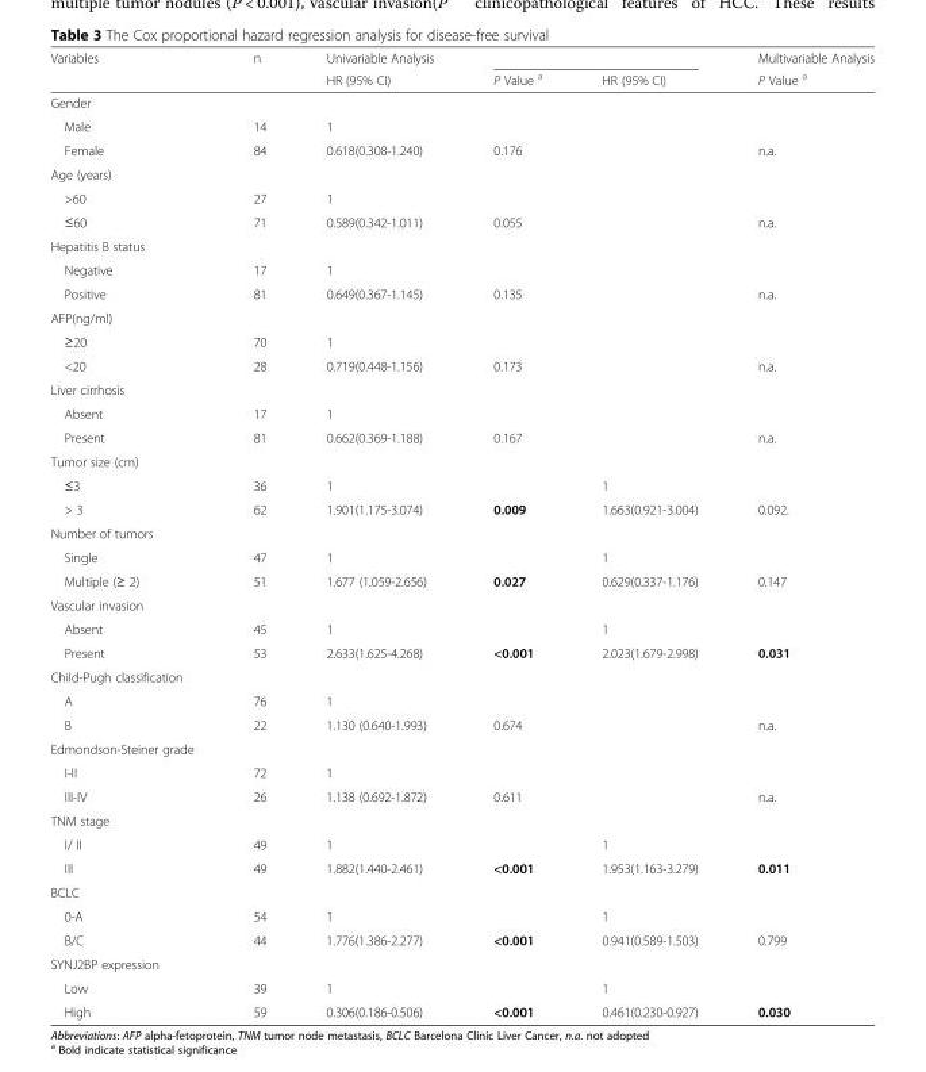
<table><thead><tr><td rowspan="2">Variables</td><td rowspan="2">n</td><td rowspan="2">Univariable Analysis HR (95% CI)</td><td rowspan="2">P Value <sup>a</sup></td><td rowspan="2">HR (95% CI)</td><td rowspan="2">Multivariable Analysis P Value <sup>a</sup></td></tr><tr></tr></thead><tbody><tr><td colspan="6">Gender</td></tr><tr><td>Male</td><td>14</td><td>1</td><td></td><td></td><td></td></tr><tr><td>Female</td><td>84</td><td>0.618(0.308-1.240)</td><td>0.176</td><td></td><td>n.a.</td></tr><tr><td colspan="6">Age (years)</td></tr><tr><td>&gt;60</td><td>27</td><td>1</td><td></td><td></td><td></td></tr><tr><td>≤60</td><td>71</td><td>0.589(0.342-1.011)</td><td>0.055</td><td></td><td>n.a.</td></tr><tr><td colspan="6">Hepatitis B status</td></tr><tr><td>Negative</td><td>17</td><td>1</td><td></td><td></td><td></td></tr><tr><td>Positive</td><td>81</td><td>0.649(0.367-1.145)</td><td>0.135</td><td></td><td>n.a.</td></tr><tr><td colspan="6">AFP(ng/ml)</td></tr><tr><td>≥20</td><td>70</td><td>1</td><td></td><td></td><td></td></tr><tr><td>&lt;20</td><td>28</td><td>0.719(0.448-1.156)</td><td>0.173</td><td></td><td>n.a.</td></tr><tr><td colspan="6">Liver cirrhosis</td></tr><tr><td>Absent</td><td>17</td><td>1</td><td></td><td></td><td></td></tr><tr><td>Present</td><td>81</td><td>0.662(0.369-1.188)</td><td>0.167</td><td></td><td>n.a.</td></tr><tr><td colspan="6">Tumor size (cm)</td></tr><tr><td>≤3</td><td>36</td><td>1</td><td></td><td>1</td><td></td></tr><tr><td>&gt; 3</td><td>62</td><td>1.901(1.175-3.074)</td><td>0.009</td><td>1.663(0.921-3.004)</td><td>0.092.</td></tr><tr><td colspan="6">Number of tumors</td></tr><tr><td>Single</td><td>47</td><td>1</td><td></td><td>1</td><td></td></tr><tr><td>Multiple (≥ 2)</td><td>51</td><td>1.677 (1.059-2.656)</td><td>0.027</td><td>0.629(0.337-1.176)</td><td>0.147</td></tr><tr><td colspan="6">Vascular invasion</td></tr><tr><td>Absent</td><td>45</td><td>1</td><td></td><td>1</td><td></td></tr><tr><td>Present</td><td>53</td><td>2.633(1.625-4.268)</td><td>&lt;0.001</td><td>2.023(1.679-2.998)</td><td>0.031</td></tr><tr><td colspan="6">Child-Pugh classification</td></tr><tr><td>A</td><td>76</td><td>1</td><td></td><td></td><td></td></tr><tr><td>B</td><td>22</td><td>1.130 (0.640-1.993)</td><td>0.674</td><td></td><td>n.a.</td></tr><tr><td colspan="6">Edmondson-Steiner grade</td></tr><tr><td>I-II</td><td>72</td><td>1</td><td></td><td></td><td></td></tr><tr><td>III-IV</td><td>26</td><td>1.138 (0.692-1.872)</td><td>0.611</td><td></td><td>n.a.</td></tr><tr><td colspan="6">TNM stage</td></tr><tr><td>I/ II</td><td>49</td><td>1</td><td></td><td>1</td><td></td></tr><tr><td>III</td><td>49</td><td>1.882(1.440-2.461)</td><td>&lt;0.001</td><td>1.953(1.163-3.279)</td><td>0.011</td></tr><tr><td colspan="6">BCLC</td></tr><tr><td>0-A</td><td>54</td><td>1</td><td></td><td>1</td><td></td></tr><tr><td>B/C</td><td>44</td><td>1.776(1.386-2.277)</td><td>&lt;0.001</td><td>0.941(0.589-1.503)</td><td>0.799</td></tr><tr><td colspan="6">SYNJ2BP expression</td></tr><tr><td>Low</td><td>39</td><td>1</td><td></td><td>1</td><td></td></tr><tr><td>High</td><td>59</td><td>0.306(0.186-0.506)</td><td>&lt;0.001</td><td>0.461(0.230-0.927)</td><td>0.030</td></tr></tbody></table>